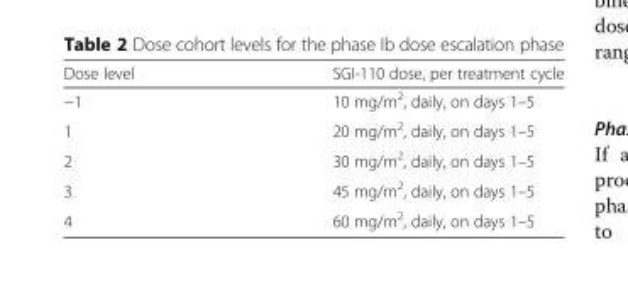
<table><thead><tr><td>Dose level</td><td>SGI-110 dose, per treatment cycle</td></tr></thead><tbody><tr><td>−1</td><td>10 mg/m<sup>2</sup>, daily, on days 1–5</td></tr><tr><td>1</td><td>20 mg/m<sup>2</sup>, daily, on days 1–5</td></tr><tr><td>2</td><td>30 mg/m<sup>2</sup>, daily, on days 1–5</td></tr><tr><td>3</td><td>45 mg/m<sup>2</sup>, daily, on days 1–5</td></tr><tr><td>4</td><td>60 mg/m<sup>2</sup>, daily, on days 1–5</td></tr></tbody></table>